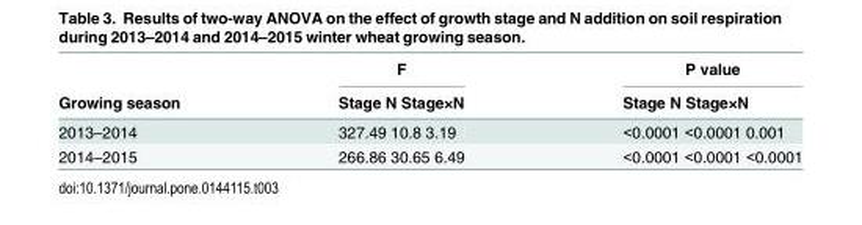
<table><thead><tr><td rowspan="2">Growing season</td><td rowspan="2">F Stage N Stage×N</td><td rowspan="2">P value Stage N Stage×N</td></tr><tr></tr></thead><tbody><tr><td>2013–2014</td><td>327.49 10.8 3.19</td><td>&lt;0.0001 &lt;0.0001 0.001</td></tr><tr><td>2014–2015</td><td>266.86 30.65 6.49</td><td>&lt;0.0001 &lt;0.0001 &lt;0.0001</td></tr></tbody></table>